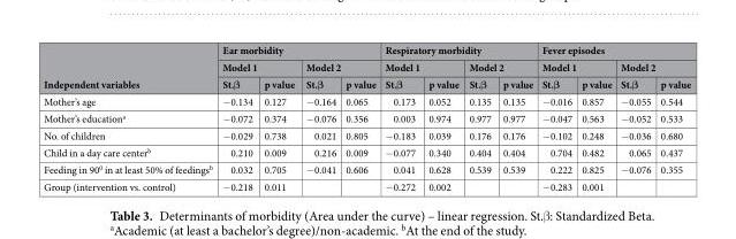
<table><thead><tr><td rowspan="3">Independent variables</td><td colspan="4">Ear morbidity</td><td colspan="4">Respiratory morbidity</td><td colspan="4">Fever episodes</td></tr><tr><td colspan="2">Model 1</td><td colspan="2">Model 2</td><td colspan="2">Model 1</td><td colspan="2">Model 2</td><td colspan="2">Model 1</td><td colspan="2">Model 2</td></tr><tr><td>St.β</td><td>p value</td><td>St.β</td><td>p value</td><td>St.β</td><td>p value</td><td>St.β</td><td>p value</td><td>St.β</td><td>p value</td><td>St.β</td><td>p value</td></tr></thead><tbody><tr><td>Mother’s age</td><td>−0.134</td><td>0.127</td><td>−0.164</td><td>0.065</td><td>0.173</td><td>0.052</td><td>0.135</td><td>0.135</td><td>−0.016</td><td>0.857</td><td>−0.055</td><td>0.544</td></tr><tr><td>Mother’s education<sup>a</sup></td><td>−0.072</td><td>0.374</td><td>−0.076</td><td>0.356</td><td>0.003</td><td>0.974</td><td>0.977</td><td>0.977</td><td>−0.047</td><td>0.563</td><td>−0.052</td><td>0.533</td></tr><tr><td>No. of children</td><td>−0.029</td><td>0.738</td><td>0.021</td><td>0.805</td><td>−0.183</td><td>0.039</td><td>0.176</td><td>0.176</td><td>−0.102</td><td>0.248</td><td>−0.036</td><td>0.680</td></tr><tr><td>Child in a day care center<sup>b</sup></td><td>0.210</td><td>0.009</td><td>0.216</td><td>0.009</td><td>−0.077</td><td>0.340</td><td>0.404</td><td>0.404</td><td>0.704</td><td>0.482</td><td>0.065</td><td>0.437</td></tr><tr><td>Feeding in 90<sup>0</sup> in at least 50% of feedings<sup>b</sup></td><td>0.032</td><td>0.705</td><td>−0.041</td><td>0.606</td><td>0.041</td><td>0.628</td><td>0.539</td><td>0.539</td><td>0.222</td><td>0.825</td><td>−0.076</td><td>0.355</td></tr><tr><td>Group (intervention vs. control)</td><td>−0.218</td><td>0.011</td><td></td><td></td><td>−0.272</td><td>0.002</td><td></td><td></td><td>−0.283</td><td>0.001</td><td></td><td></td></tr></tbody></table>